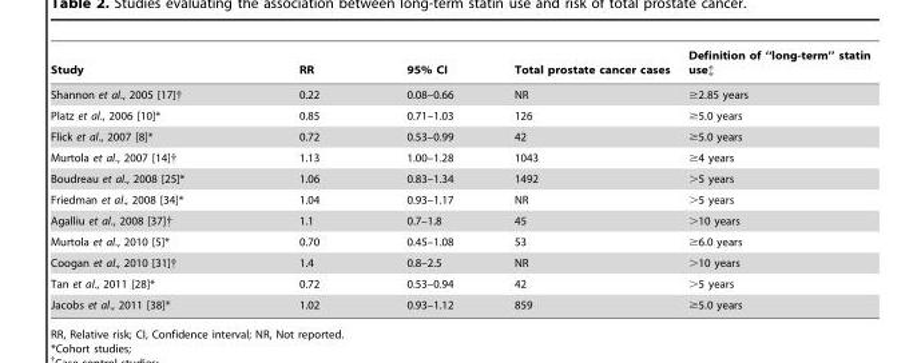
<table><thead><tr><td>Study</td><td>RR</td><td>95% CI</td><td>Total prostate cancer cases</td><td>Definition of ‘‘long-term’’ statin use{</td></tr></thead><tbody><tr><td>Shannon et al., 2005 [17]†</td><td>0.22</td><td>0.08–0.66</td><td>NR</td><td>≥2.85 years</td></tr><tr><td>Platz et al., 2006 [10]*</td><td>0.85</td><td>0.71–1.03</td><td>126</td><td>≥5.0 years</td></tr><tr><td>Flick et al., 2007 [8]*</td><td>0.72</td><td>0.53–0.99</td><td>42</td><td>≥5.0 years</td></tr><tr><td>Murtola et al., 2007 [14]†</td><td>1.13</td><td>1.00–1.28</td><td>1043</td><td>≥4 years</td></tr><tr><td>Boudreau et al., 2008 [25]*</td><td>1.06</td><td>0.83–1.34</td><td>1492</td><td>&gt;5 years</td></tr><tr><td>Friedman et al., 2008 [34]*</td><td>1.04</td><td>0.93–1.17</td><td>NR</td><td>&gt;5 years</td></tr><tr><td>Agalliu et al., 2008 [37]†</td><td>1.1</td><td>0.7–1.8</td><td>45</td><td>&gt;10 years</td></tr><tr><td>Murtola et al., 2010 [5]*</td><td>0.70</td><td>0.45–1.08</td><td>53</td><td>≥6.0 years</td></tr><tr><td>Coogan et al., 2010 [31]†</td><td>1.4</td><td>0.8–2.5</td><td>NR</td><td>&gt;10 years</td></tr><tr><td>Tan et al., 2011 [28]*</td><td>0.72</td><td>0.53–0.94</td><td>42</td><td>&gt;5 years</td></tr><tr><td>Jacobs et al., 2011 [38]*</td><td>1.02</td><td>0.93–1.12</td><td>859</td><td>≥5.0 years</td></tr></tbody></table>